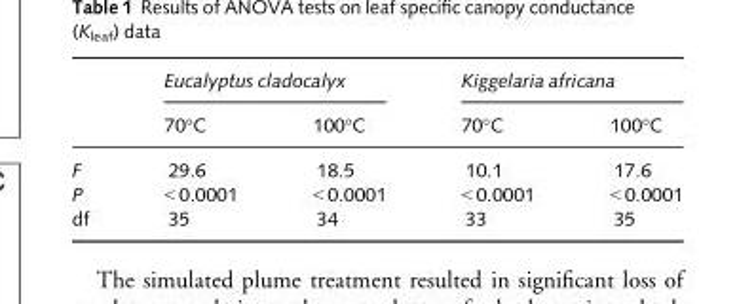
<table><thead><tr><td rowspan="2"></td><td colspan="2">Eucalyptus cladocalyx</td><td colspan="2">Kiggelaria africana</td></tr><tr><td>70°C</td><td>100°C</td><td>70°C</td><td>100°C</td></tr></thead><tbody><tr><td>F</td><td>29.6</td><td>18.5</td><td>10.1</td><td>17.6</td></tr><tr><td>P</td><td>&lt; 0.0001</td><td>&lt; 0.0001</td><td>&lt; 0.0001</td><td>&lt; 0.0001</td></tr><tr><td>df</td><td>35</td><td>34</td><td>33</td><td>35</td></tr></tbody></table>